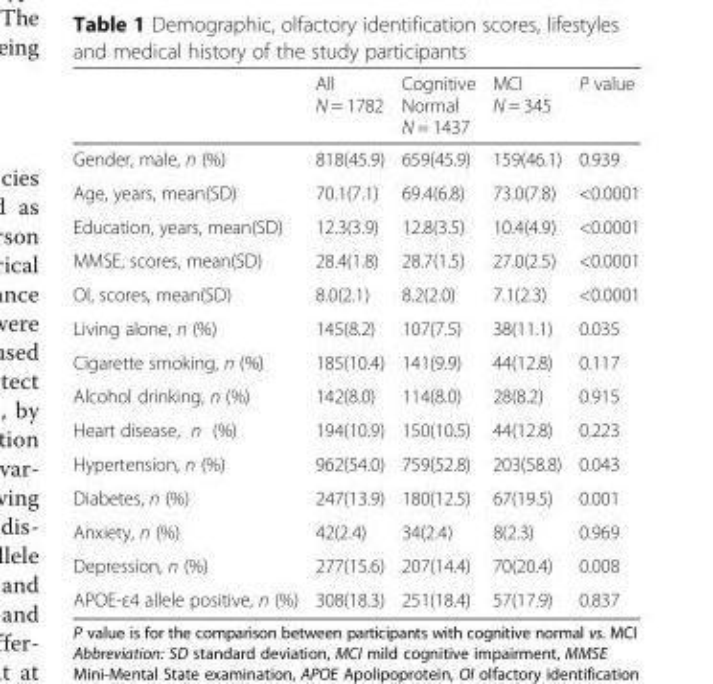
<table><thead><tr><td></td><td>All N = 1782</td><td>Cognitive Normal N = 1437</td><td>MCI N = 345</td><td>P value</td></tr></thead><tbody><tr><td>Gender, male, n (%)</td><td>818(45.9)</td><td>659(45.9)</td><td>159(46.1)</td><td>0.939</td></tr><tr><td>Age, years, mean(SD)</td><td>70.1(7.1)</td><td>69.4(6.8)</td><td>73.0(7.8)</td><td>&lt;0.0001</td></tr><tr><td>Education, years, mean(SD)</td><td>12.3(3.9)</td><td>12.8(3.5)</td><td>10.4(4.9)</td><td>&lt;0.0001</td></tr><tr><td>MMSE, scores, mean(SD)</td><td>28.4(1.8)</td><td>28.7(1.5)</td><td>27.0(2.5)</td><td>&lt;0.0001</td></tr><tr><td>OI, scores, mean(SD)</td><td>8.0(2.1)</td><td>8.2(2.0)</td><td>7.1(2.3)</td><td>&lt;0.0001</td></tr><tr><td>Living alone, n (%)</td><td>145(8.2)</td><td>107(7.5)</td><td>38(11.1)</td><td>0.035</td></tr><tr><td>Cigarette smoking, n (%)</td><td>185(10.4)</td><td>141(9.9)</td><td>44(12.8)</td><td>0.117</td></tr><tr><td>Alcohol drinking, n (%)</td><td>142(8.0)</td><td>114(8.0)</td><td>28(8.2)</td><td>0.915</td></tr><tr><td>Heart disease, n (%)</td><td>194(10.9)</td><td>150(10.5)</td><td>44(12.8)</td><td>0.223</td></tr><tr><td>Hypertension, n (%)</td><td>962(54.0)</td><td>759(52.8)</td><td>203(58.8)</td><td>0.043</td></tr><tr><td>Diabetes, n (%)</td><td>247(13.9)</td><td>180(12.5)</td><td>67(19.5)</td><td>0.001</td></tr><tr><td>Anxiety, n (%)</td><td>42(2.4)</td><td>34(2.4)</td><td>8(2.3)</td><td>0.969</td></tr><tr><td>Depression, n (%)</td><td>277(15.6)</td><td>207(14.4)</td><td>70(20.4)</td><td>0.008</td></tr><tr><td>APOE-ε4 allele positive, n (%)</td><td>308(18.3)</td><td>251(18.4)</td><td>57(17.9)</td><td>0.837</td></tr></tbody></table>